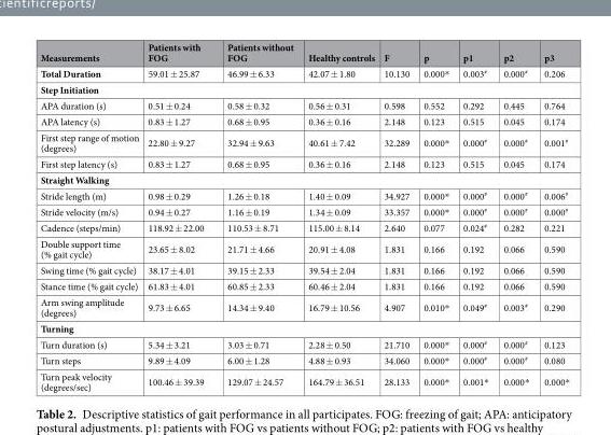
<table><thead><tr><td>Measurements</td><td>Patients with FOG</td><td>Patients without FOG</td><td>Healthy controls</td><td>F</td><td>p</td><td>p1</td><td>p2</td><td>p3</td></tr></thead><tbody><tr><td>Total Duration</td><td>59.01 ± 25.87</td><td>46.99 ± 6.33</td><td>42.07 ± 1.80</td><td>10.130</td><td>0.000*</td><td>0.003<sup>#</sup></td><td>0.000<sup>#</sup></td><td>0.206</td></tr><tr><td colspan="9">Step Initiation</td></tr><tr><td>APA duration (s)</td><td>0.51 ± 0.24</td><td>0.58 ± 0.32</td><td>0.56 ± 0.31</td><td>0.598</td><td>0.552</td><td>0.292</td><td>0.445</td><td>0.764</td></tr><tr><td>APA latency (s)</td><td>0.83 ± 1.27</td><td>0.68 ± 0.95</td><td>0.36 ± 0.16</td><td>2.148</td><td>0.123</td><td>0.515</td><td>0.045</td><td>0.174</td></tr><tr><td>First step range of motion (degrees)</td><td>22.80 ± 9.27</td><td>32.94 ± 9.63</td><td>40.61 ± 7.42</td><td>32.289</td><td>0.000*</td><td>0.000<sup>#</sup></td><td>0.000<sup>#</sup></td><td>0.001<sup>#</sup></td></tr><tr><td>First step latency (s)</td><td>0.83 ± 1.27</td><td>0.68 ± 0.95</td><td>0.36 ± 0.16</td><td>2.148</td><td>0.123</td><td>0.515</td><td>0.045</td><td>0.174</td></tr><tr><td colspan="9">Straight Walking</td></tr><tr><td>Stride length (m)</td><td>0.98 ± 0.29</td><td>1.26 ± 0.18</td><td>1.40 ± 0.09</td><td>34.927</td><td>0.000*</td><td>0.000<sup>#</sup></td><td>0.000<sup>#</sup></td><td>0.006<sup>#</sup></td></tr><tr><td>Stride velocity (m/s)</td><td>0.94 ± 0.27</td><td>1.16 ± 0.19</td><td>1.34 ± 0.09</td><td>33.357</td><td>0.000*</td><td>0.000<sup>#</sup></td><td>0.000<sup>#</sup></td><td>0.000<sup>#</sup></td></tr><tr><td>Cadence (steps/min)</td><td>118.92 ± 22.00</td><td>110.53 ± 8.71</td><td>115.00 ± 8.14</td><td>2.640</td><td>0.077</td><td>0.024<sup>#</sup></td><td>0.282</td><td>0.221</td></tr><tr><td>Double support time (% gait cycle)</td><td>23.65 ± 8.02</td><td>21.71 ± 4.66</td><td>20.91 ± 4.08</td><td>1.831</td><td>0.166</td><td>0.192</td><td>0.066</td><td>0.590</td></tr><tr><td>Swing time (% gait cycle)</td><td>38.17 ± 4.01</td><td>39.15 ± 2.33</td><td>39.54 ± 2.04</td><td>1.831</td><td>0.166</td><td>0.192</td><td>0.066</td><td>0.590</td></tr><tr><td>Stance time (% gait cycle)</td><td>61.83 ± 4.01</td><td>60.85 ± 2.33</td><td>60.46 ± 2.04</td><td>1.831</td><td>0.166</td><td>0.192</td><td>0.066</td><td>0.590</td></tr><tr><td>Arm swing amplitude (degrees)</td><td>9.73 ± 6.65</td><td>14.34 ± 9.40</td><td>16.79 ± 10.56</td><td>4.907</td><td>0.010*</td><td>0.049<sup>#</sup></td><td>0.003<sup>#</sup></td><td>0.290</td></tr><tr><td colspan="9">Turning</td></tr><tr><td>Turn duration (s)</td><td>5.34 ± 3.21</td><td>3.03 ± 0.71</td><td>2.28 ± 0.50</td><td>21.710</td><td>0.000*</td><td>0.000<sup>#</sup></td><td>0.000<sup>#</sup></td><td>0.123</td></tr><tr><td>Turn steps</td><td>9.89 ± 4.09</td><td>6.00 ± 1.28</td><td>4.88 ± 0.93</td><td>34.060</td><td>0.000*</td><td>0.000<sup>#</sup></td><td>0.000<sup>#</sup></td><td>0.080</td></tr><tr><td>Turn peak velocity (degrees/sec)</td><td>100.46 ± 39.39</td><td>129.07 ± 24.57</td><td>164.79 ± 36.51</td><td>28.133</td><td>0.000*</td><td>0.001*</td><td>0.000*</td><td>0.000*</td></tr></tbody></table>